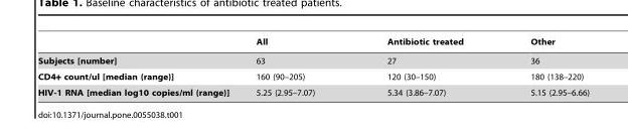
<table><thead><tr><td></td><td>All</td><td>Antibiotic treated</td><td>Other</td></tr></thead><tbody><tr><td>Subjects [number]</td><td>63</td><td>27</td><td>36</td></tr><tr><td>CD4+ count/ul [median (range)]</td><td>160 (90–205)</td><td>120 (30–150)</td><td>180 (138–220)</td></tr><tr><td>HIV-1 RNA [median log10 copies/ml (range)]</td><td>5.25 (2.95–7.07)</td><td>5.34 (3.86–7.07)</td><td>5.15 (2.95–6.66)</td></tr></tbody></table>